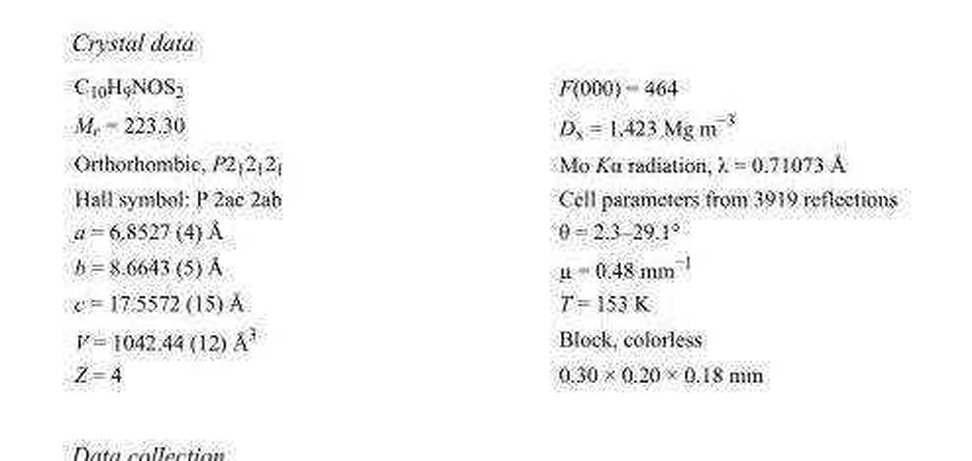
<table><tbody><tr><td>C<sub>10</sub>H<sub>9</sub>NOS<sub>2</sub></td><td>F(000) = 464</td></tr><tr><td>M<sub>r</sub> = 223.30</td><td>D<sub>x</sub> = 1.423 Mg m<sup>−3</sup></td></tr><tr><td>Orthorhombic, P2<sub>1</sub>2<sub>1</sub>2<sub>1</sub></td><td>Mo Kα radiation, λ = 0.71073 Å</td></tr><tr><td>Hall symbol: P 2ac 2ab</td><td>Cell parameters from 3919 reflections</td></tr><tr><td>a = 6.8527 (4) Å</td><td>θ = 2.3–29.1°</td></tr><tr><td>b = 8.6643 (5) Å</td><td>µ = 0.48 mm<sup>−1</sup></td></tr><tr><td>c = 17.5572 (15) Å</td><td>T = 153 K</td></tr><tr><td>V = 1042.44 (12) Å<sup>3</sup></td><td>Block, colorless</td></tr><tr><td>Z = 4</td><td>0.30 × 0.20 × 0.18 mm</td></tr></tbody></table>